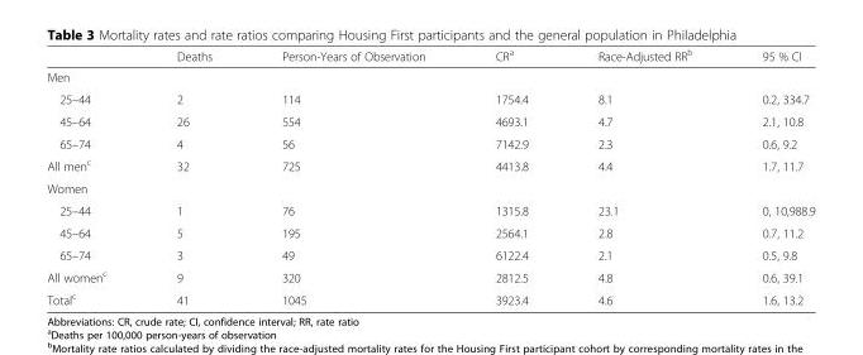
<table><thead><tr><td></td><td>Deaths</td><td>Person-Years of Observation</td><td>CR<sup>a</sup></td><td>Race-Adjusted RR<sup>b</sup></td><td>95 % CI</td></tr></thead><tbody><tr><td colspan="6">Men</td></tr><tr><td>25–44</td><td>2</td><td>114</td><td>1754.4</td><td>8.1</td><td>0.2, 334.7</td></tr><tr><td>45–64</td><td>26</td><td>554</td><td>4693.1</td><td>4.7</td><td>2.1, 10.8</td></tr><tr><td>65–74</td><td>4</td><td>56</td><td>7142.9</td><td>2.3</td><td>0.6, 9.2</td></tr><tr><td>All men<sup>c</sup></td><td>32</td><td>725</td><td>4413.8</td><td>4.4</td><td>1.7, 11.7</td></tr><tr><td colspan="6">Women</td></tr><tr><td>25–44</td><td>1</td><td>76</td><td>1315.8</td><td>23.1</td><td>0, 10,988.9</td></tr><tr><td>45–64</td><td>5</td><td>195</td><td>2564.1</td><td>2.8</td><td>0.7, 11.2</td></tr><tr><td>65–74</td><td>3</td><td>49</td><td>6122.4</td><td>2.1</td><td>0.5, 9.8</td></tr><tr><td>All women<sup>c</sup></td><td>9</td><td>320</td><td>2812.5</td><td>4.8</td><td>0.6, 39.1</td></tr><tr><td>Total<sup>c</sup></td><td>41</td><td>1045</td><td>3923.4</td><td>4.6</td><td>1.6, 13.2</td></tr></tbody></table>